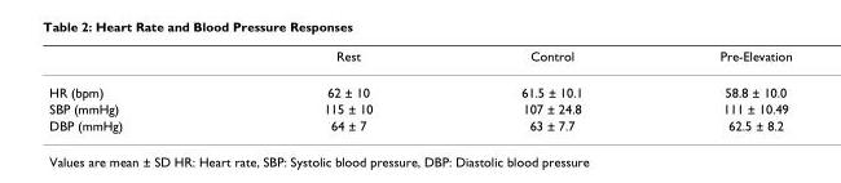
<table><thead><tr><td></td><td>Rest</td><td>Control</td><td>Pre-Elevation</td></tr></thead><tbody><tr><td>HR (bpm)</td><td>62 ± 10</td><td>61.5 ± 10.1</td><td>58.8 ± 10.0</td></tr><tr><td>SBP (mmHg)</td><td>115 ± 10</td><td>107 ± 24.8</td><td>111 ± 10.49</td></tr><tr><td>DBP (mmHg)</td><td>64 ± 7</td><td>63 ± 7.7</td><td>62.5 ± 8.2</td></tr></tbody></table>